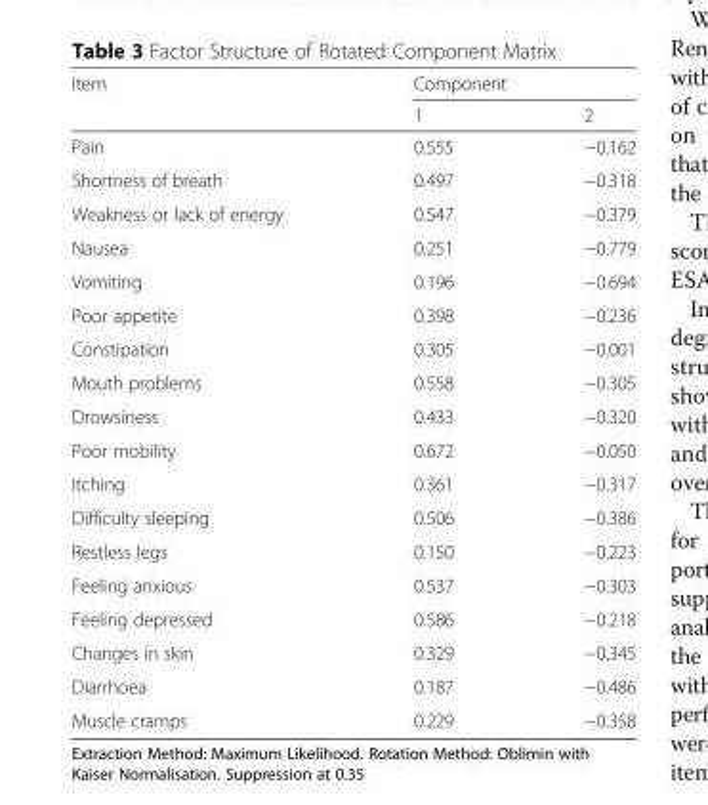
<table><thead><tr><td rowspan="2">Item</td><td colspan="2">Component</td></tr><tr><td>1</td><td>2</td></tr></thead><tbody><tr><td>Pain</td><td>0.555</td><td>−0.162</td></tr><tr><td>Shortness of breath</td><td>0.497</td><td>−0.318</td></tr><tr><td>Weakness or lack of energy</td><td>0.547</td><td>−0.379</td></tr><tr><td>Nausea</td><td>0.251</td><td>−0.779</td></tr><tr><td>Vomiting</td><td>0.196</td><td>−0.694</td></tr><tr><td>Poor appetite</td><td>0.398</td><td>−0.236</td></tr><tr><td>Constipation</td><td>0.305</td><td>−0.001</td></tr><tr><td>Mouth problems</td><td>0.558</td><td>−0.305</td></tr><tr><td>Drowsiness</td><td>0.433</td><td>−0.320</td></tr><tr><td>Poor mobility</td><td>0.672</td><td>−0.050</td></tr><tr><td>Itching</td><td>0.361</td><td>−0.317</td></tr><tr><td>Difficulty sleeping</td><td>0.506</td><td>−0.386</td></tr><tr><td>Restless legs</td><td>0.150</td><td>−0.223</td></tr><tr><td>Feeling anxious</td><td>0.537</td><td>−0.303</td></tr><tr><td>Feeling depressed</td><td>0.586</td><td>−0.218</td></tr><tr><td>Changes in skin</td><td>0.329</td><td>−0.345</td></tr><tr><td>Diarrhoea</td><td>0.187</td><td>−0.486</td></tr><tr><td>Muscle cramps</td><td>0.229</td><td>−0.358</td></tr></tbody></table>